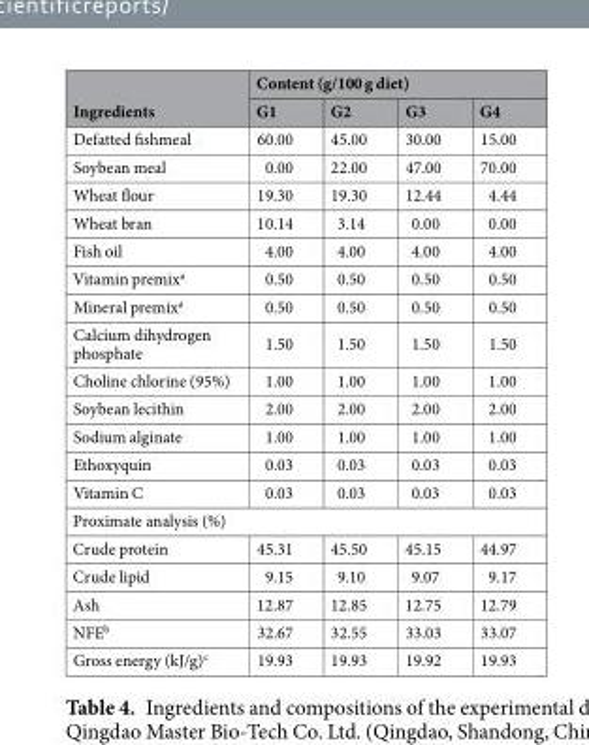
<table><thead><tr><td rowspan="2">Ingredients</td><td colspan="4">Content (g/100 g diet)</td></tr><tr><td>G1</td><td>G2</td><td>G3</td><td>G4</td></tr></thead><tbody><tr><td>Defatted fishmeal</td><td>60.00</td><td>45.00</td><td>30.00</td><td>15.00</td></tr><tr><td>Soybean meal</td><td>0.00</td><td>22.00</td><td>47.00</td><td>70.00</td></tr><tr><td>Wheat flour</td><td>19.30</td><td>19.30</td><td>12.44</td><td>4.44</td></tr><tr><td>Wheat bran</td><td>10.14</td><td>3.14</td><td>0.00</td><td>0.00</td></tr><tr><td>Fish oil</td><td>4.00</td><td>4.00</td><td>4.00</td><td>4.00</td></tr><tr><td>Vitamin premix<sup>a</sup></td><td>0.50</td><td>0.50</td><td>0.50</td><td>0.50</td></tr><tr><td>Mineral premix<sup>a</sup></td><td>0.50</td><td>0.50</td><td>0.50</td><td>0.50</td></tr><tr><td>Calcium dihydrogen phosphate</td><td>1.50</td><td>1.50</td><td>1.50</td><td>1.50</td></tr><tr><td>Choline chlorine (95%)</td><td>1.00</td><td>1.00</td><td>1.00</td><td>1.00</td></tr><tr><td>Soybean lecithin</td><td>2.00</td><td>2.00</td><td>2.00</td><td>2.00</td></tr><tr><td>Sodium alginate</td><td>1.00</td><td>1.00</td><td>1.00</td><td>1.00</td></tr><tr><td>Ethoxyquin</td><td>0.03</td><td>0.03</td><td>0.03</td><td>0.03</td></tr><tr><td>Vitamin C</td><td>0.03</td><td>0.03</td><td>0.03</td><td>0.03</td></tr><tr><td colspan="5">Proximate analysis (%)</td></tr><tr><td>Crude protein</td><td>45.31</td><td>45.50</td><td>45.15</td><td>44.97</td></tr><tr><td>Crude lipid</td><td>9.15</td><td>9.10</td><td>9.07</td><td>9.17</td></tr><tr><td>Ash</td><td>12.87</td><td>12.85</td><td>12.75</td><td>12.79</td></tr><tr><td>NFE<sup>b</sup></td><td>32.67</td><td>32.55</td><td>33.03</td><td>33.07</td></tr><tr><td>Gross energy (kJ/g)<sup>c</sup></td><td>19.93</td><td>19.93</td><td>19.92</td><td>19.93</td></tr></tbody></table>